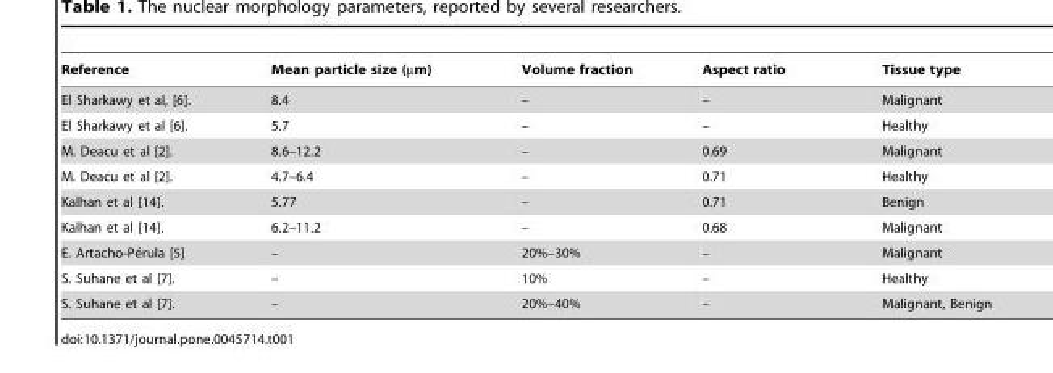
<table><thead><tr><td>Reference</td><td>Mean particle size (µm)</td><td>Volume fraction</td><td>Aspect ratio</td><td>Tissue type</td></tr></thead><tbody><tr><td>El Sharkawy et al, [6].</td><td>8.4</td><td>–</td><td>–</td><td>Malignant</td></tr><tr><td>El Sharkawy et al [6].</td><td>5.7</td><td>–</td><td>–</td><td>Healthy</td></tr><tr><td>M. Deacu et al [2].</td><td>8.6–12.2</td><td>–</td><td>0.69</td><td>Malignant</td></tr><tr><td>M. Deacu et al [2].</td><td>4.7–6.4</td><td>–</td><td>0.71</td><td>Healthy</td></tr><tr><td>Kalhan et al [14].</td><td>5.77</td><td>–</td><td>0.71</td><td>Benign</td></tr><tr><td>Kalhan et al [14].</td><td>6.2–11.2</td><td>–</td><td>0.68</td><td>Malignant</td></tr><tr><td>E. Artacho-Pe´rula [5]</td><td>–</td><td>20%–30%</td><td>–</td><td>Malignant</td></tr><tr><td>S. Suhane et al [7].</td><td>–</td><td>10%</td><td>–</td><td>Healthy</td></tr><tr><td>S. Suhane et al [7].</td><td>–</td><td>20%–40%</td><td>–</td><td>Malignant, Benign</td></tr></tbody></table>